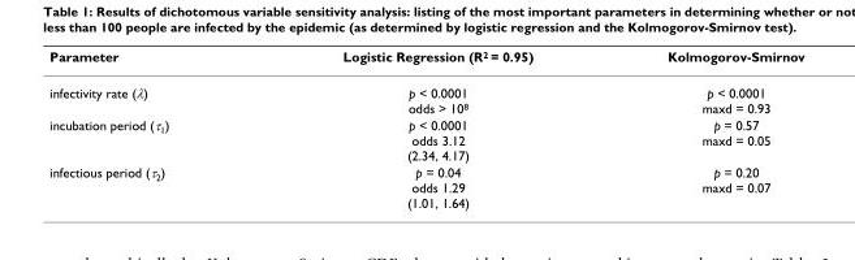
<table><thead><tr><td>Parameter</td><td>Logistic Regression (R<sup>2</sup> = 0.95)</td><td>Kolmogorov-Smirnov</td></tr></thead><tbody><tr><td>infectivity rate (λ)</td><td>p &lt; 0.0001 odds &gt; 10<sup>8</sup></td><td>p &lt; 0.0001 maxd = 0.93</td></tr><tr><td>incubation period (τ<sub>1</sub>)</td><td>p &lt; 0.0001 odds 3.12 (2.34, 4.17)</td><td>p = 0.57 maxd = 0.05</td></tr><tr><td>infectious period (τ<sub>2</sub>)</td><td>p = 0.04 odds 1.29 (1.01, 1.64)</td><td>p = 0.20 maxd = 0.07</td></tr></tbody></table>